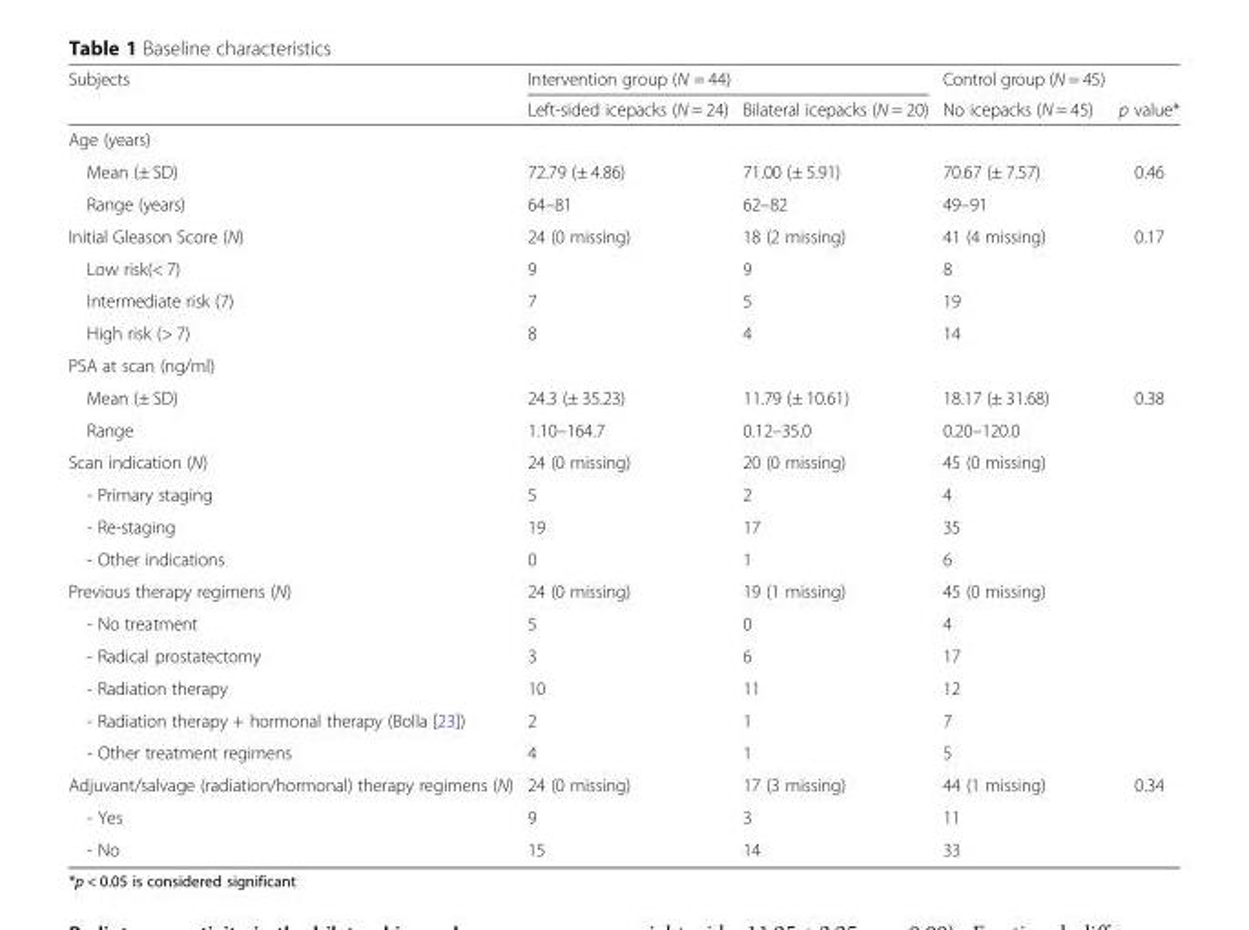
<table><thead><tr><td rowspan="2">Subjects</td><td colspan="2">Intervention group (N = 44)</td><td rowspan="2">Control group (N = 45) No icepacks (N = 45)</td><td rowspan="2">p value*</td></tr><tr><td>Left-sided icepacks (N = 24)</td><td>Bilateral icepacks (N = 20)</td></tr></thead><tbody><tr><td colspan="5">Age (years)</td></tr><tr><td>Mean (± SD)</td><td>72.79 (± 4.86)</td><td>71.00 (± 5.91)</td><td>70.67 (± 7.57)</td><td>0.46</td></tr><tr><td>Range (years)</td><td>64–81</td><td>62–82</td><td>49–91</td><td></td></tr><tr><td>Initial Gleason Score (N)</td><td>24 (0 missing)</td><td>18 (2 missing)</td><td>41 (4 missing)</td><td>0.17</td></tr><tr><td>Low risk(&lt; 7)</td><td>9</td><td>9</td><td>8</td><td></td></tr><tr><td>Intermediate risk (7)</td><td>7</td><td>5</td><td>19</td><td></td></tr><tr><td>High risk (&gt; 7)</td><td>8</td><td>4</td><td>14</td><td></td></tr><tr><td colspan="5">PSA at scan (ng/ml)</td></tr><tr><td>Mean (± SD)</td><td>24.3 (± 35.23)</td><td>11.79 (± 10.61)</td><td>18.17 (± 31.68)</td><td>0.38</td></tr><tr><td>Range</td><td>1.10–164.7</td><td>0.12–35.0</td><td>0.20–120.0</td><td></td></tr><tr><td>Scan indication (N)</td><td>24 (0 missing)</td><td>20 (0 missing)</td><td>45 (0 missing)</td><td></td></tr><tr><td>- Primary staging</td><td>5</td><td>2</td><td>4</td><td></td></tr><tr><td>- Re-staging</td><td>19</td><td>17</td><td>35</td><td></td></tr><tr><td>- Other indications</td><td>0</td><td>1</td><td>6</td><td></td></tr><tr><td>Previous therapy regimens (N)</td><td>24 (0 missing)</td><td>19 (1 missing)</td><td>45 (0 missing)</td><td></td></tr><tr><td>- No treatment</td><td>5</td><td>0</td><td>4</td><td></td></tr><tr><td>- Radical prostatectomy</td><td>3</td><td>6</td><td>17</td><td></td></tr><tr><td>- Radiation therapy</td><td>10</td><td>11</td><td>12</td><td></td></tr><tr><td>- Radiation therapy + hormonal therapy (Bolla [23])</td><td>2</td><td>1</td><td>7</td><td></td></tr><tr><td>- Other treatment regimens</td><td>4</td><td>1</td><td>5</td><td></td></tr><tr><td>Adjuvant/salvage (radiation/hormonal) therapy regimens (N)</td><td>24 (0 missing)</td><td>17 (3 missing)</td><td>44 (1 missing)</td><td>0.34</td></tr><tr><td>- Yes</td><td>9</td><td>3</td><td>11</td><td></td></tr><tr><td>- No</td><td>15</td><td>14</td><td>33</td><td></td></tr></tbody></table>